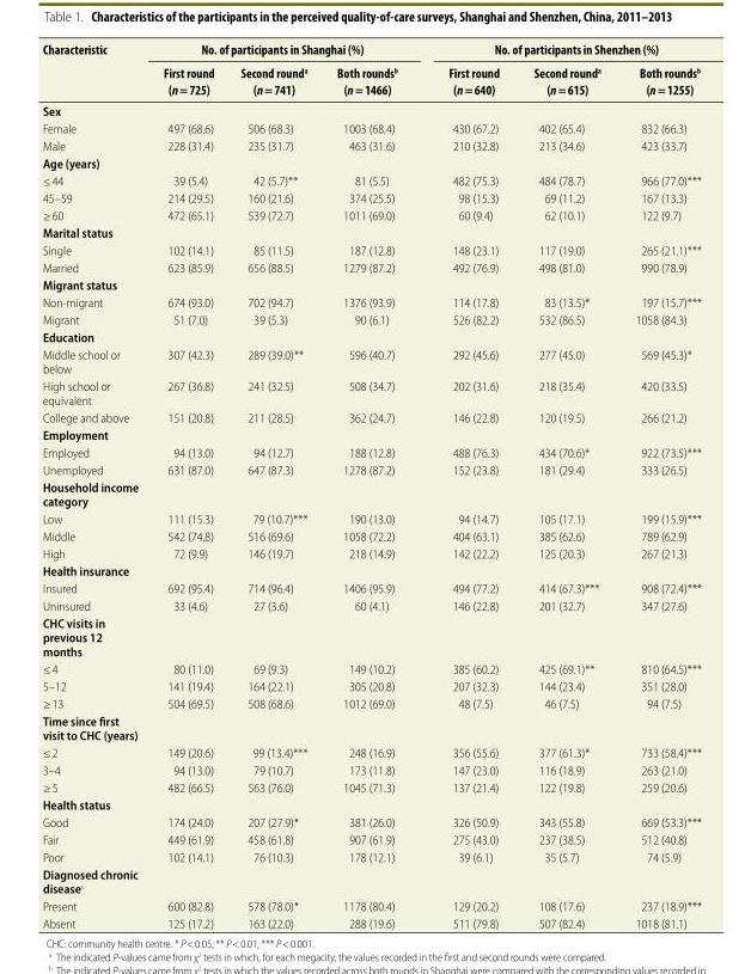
<table><thead><tr><td rowspan="2">Characteristic</td><td colspan="3">No. of participants in Shanghai (%)</td><td colspan="3">No. of participants in Shenzhen (%)</td></tr><tr><td>First round (n = 725)</td><td>Second round<sup>a</sup> (n = 741)</td><td>Both rounds<sup>b</sup> (n = 1466)</td><td>First round (n = 640)</td><td>Second round<sup>a</sup> (n = 615)</td><td>Both rounds<sup>b</sup> (n = 1255)</td></tr></thead><tbody><tr><td colspan="7">Sex</td></tr><tr><td>Female</td><td>497 (68.6)</td><td>506 (68.3)</td><td>1003 (68.4)</td><td>430 (67.2)</td><td>402 (65.4)</td><td>832 (66.3)</td></tr><tr><td>Male</td><td>228 (31.4)</td><td>235 (31.7)</td><td>463 (31.6)</td><td>210 (32.8)</td><td>213 (34.6)</td><td>423 (33.7)</td></tr><tr><td colspan="7">Age (years)</td></tr><tr><td>≤ 44</td><td>39 (5.4)</td><td>42 (5.7)**</td><td>81 (5.5)</td><td>482 (75.3)</td><td>484 (78.7)</td><td>966 (77.0)***</td></tr><tr><td>45–59</td><td>214 (29.5)</td><td>160 (21.6)</td><td>374 (25.5)</td><td>98 (15.3)</td><td>69 (11.2)</td><td>167 (13.3)</td></tr><tr><td>≥ 60</td><td>472 (65.1)</td><td>539 (72.7)</td><td>1011 (69.0)</td><td>60 (9.4)</td><td>62 (10.1)</td><td>122 (9.7)</td></tr><tr><td colspan="7">Marital status</td></tr><tr><td>Single</td><td>102 (14.1)</td><td>85 (11.5)</td><td>187 (12.8)</td><td>148 (23.1)</td><td>117 (19.0)</td><td>265 (21.1)***</td></tr><tr><td>Married</td><td>623 (85.9)</td><td>656 (88.5)</td><td>1279 (87.2)</td><td>492 (76.9)</td><td>498 (81.0)</td><td>990 (78.9)</td></tr><tr><td colspan="7">Migrant status</td></tr><tr><td>Non-migrant</td><td>674 (93.0)</td><td>702 (94.7)</td><td>1376 (93.9)</td><td>114 (17.8)</td><td>83 (13.5)*</td><td>197 (15.7)***</td></tr><tr><td>Migrant</td><td>51 (7.0)</td><td>39 (5.3)</td><td>90 (6.1)</td><td>526 (82.2)</td><td>532 (86.5)</td><td>1058 (84.3)</td></tr><tr><td colspan="7">Education</td></tr><tr><td>Middle school or below</td><td>307 (42.3)</td><td>289 (39.0)**</td><td>596 (40.7)</td><td>292 (45.6)</td><td>277 (45.0)</td><td>569 (45.3)*</td></tr><tr><td>High school or equivalent</td><td>267 (36.8)</td><td>241 (32.5)</td><td>508 (34.7)</td><td>202 (31.6)</td><td>218 (35.4)</td><td>420 (33.5)</td></tr><tr><td>College and above</td><td>151 (20.8)</td><td>211 (28.5)</td><td>362 (24.7)</td><td>146 (22.8)</td><td>120 (19.5)</td><td>266 (21.2)</td></tr><tr><td colspan="7">Employment</td></tr><tr><td>Employed</td><td>94 (13.0)</td><td>94 (12.7)</td><td>188 (12.8)</td><td>488 (76.3)</td><td>434 (70.6)*</td><td>922 (73.5)***</td></tr><tr><td>Unemployed</td><td>631 (87.0)</td><td>647 (87.3)</td><td>1278 (87.2)</td><td>152 (23.8)</td><td>181 (29.4)</td><td>333 (26.5)</td></tr><tr><td colspan="7">Household income category</td></tr><tr><td>Low</td><td>111 (15.3)</td><td>79 (10.7)***</td><td>190 (13.0)</td><td>94 (14.7)</td><td>105 (17.1)</td><td>199 (15.9)***</td></tr><tr><td>Middle</td><td>542 (74.8)</td><td>516 (69.6)</td><td>1058 (72.2)</td><td>404 (63.1)</td><td>385 (62.6)</td><td>789 (62.9)</td></tr><tr><td>High</td><td>72 (9.9)</td><td>146 (19.7)</td><td>218 (14.9)</td><td>142 (22.2)</td><td>125 (20.3)</td><td>267 (21.3)</td></tr><tr><td colspan="7">Health insurance</td></tr><tr><td>Insured</td><td>692 (95.4)</td><td>714 (96.4)</td><td>1406 (95.9)</td><td>494 (77.2)</td><td>414 (67.3)***</td><td>908 (72.4)***</td></tr><tr><td>Uninsured</td><td>33 (4.6)</td><td>27 (3.6)</td><td>60 (4.1)</td><td>146 (22.8)</td><td>201 (32.7)</td><td>347 (27.6)</td></tr><tr><td colspan="7">CHC visits in previous 12 months</td></tr><tr><td>≤ 4</td><td>80 (11.0)</td><td>69 (9.3)</td><td>149 (10.2)</td><td>385 (60.2)</td><td>425 (69.1)**</td><td>810 (64.5)***</td></tr><tr><td>5–12</td><td>141 (19.4)</td><td>164 (22.1)</td><td>305 (20.8)</td><td>207 (32.3)</td><td>144 (23.4)</td><td>351 (28.0)</td></tr><tr><td>≥ 13</td><td>504 (69.5)</td><td>508 (68.6)</td><td>1012 (69.0)</td><td>48 (7.5)</td><td>46 (7.5)</td><td>94 (7.5)</td></tr><tr><td colspan="7">Time since first visit to CHC (years)</td></tr><tr><td>≤ 2</td><td>149 (20.6)</td><td>99 (13.4)***</td><td>248 (16.9)</td><td>356 (55.6)</td><td>377 (61.3)*</td><td>733 (58.4)***</td></tr><tr><td>3–4</td><td>94 (13.0)</td><td>79 (10.7)</td><td>173 (11.8)</td><td>147 (23.0)</td><td>116 (18.9)</td><td>263 (21.0)</td></tr><tr><td>≥ 5</td><td>482 (66.5)</td><td>563 (76.0)</td><td>1045 (71.3)</td><td>137 (21.4)</td><td>122 (19.8)</td><td>259 (20.6)</td></tr><tr><td colspan="7">Health status</td></tr><tr><td>Good</td><td>174 (24.0)</td><td>207 (27.9)*</td><td>381 (26.0)</td><td>326 (50.9)</td><td>343 (55.8)</td><td>669 (53.3)***</td></tr><tr><td>Fair</td><td>449 (61.9)</td><td>458 (61.8)</td><td>907 (61.9)</td><td>275 (43.0)</td><td>237 (38.5)</td><td>512 (40.8)</td></tr><tr><td>Poor</td><td>102 (14.1)</td><td>76 (10.3)</td><td>178 (12.1)</td><td>39 (6.1)</td><td>35 (5.7)</td><td>74 (5.9)</td></tr><tr><td colspan="7">Diagnosed chronic disease<sup>c</sup></td></tr><tr><td>Present</td><td>600 (82.8)</td><td>578 (78.0)*</td><td>1178 (80.4)</td><td>129 (20.2)</td><td>108 (17.6)</td><td>237 (18.9)***</td></tr><tr><td>Absent</td><td>125 (17.2)</td><td>163 (22.0)</td><td>288 (19.6)</td><td>511 (79.8)</td><td>507 (82.4)</td><td>1018 (81.1)</td></tr></tbody></table>